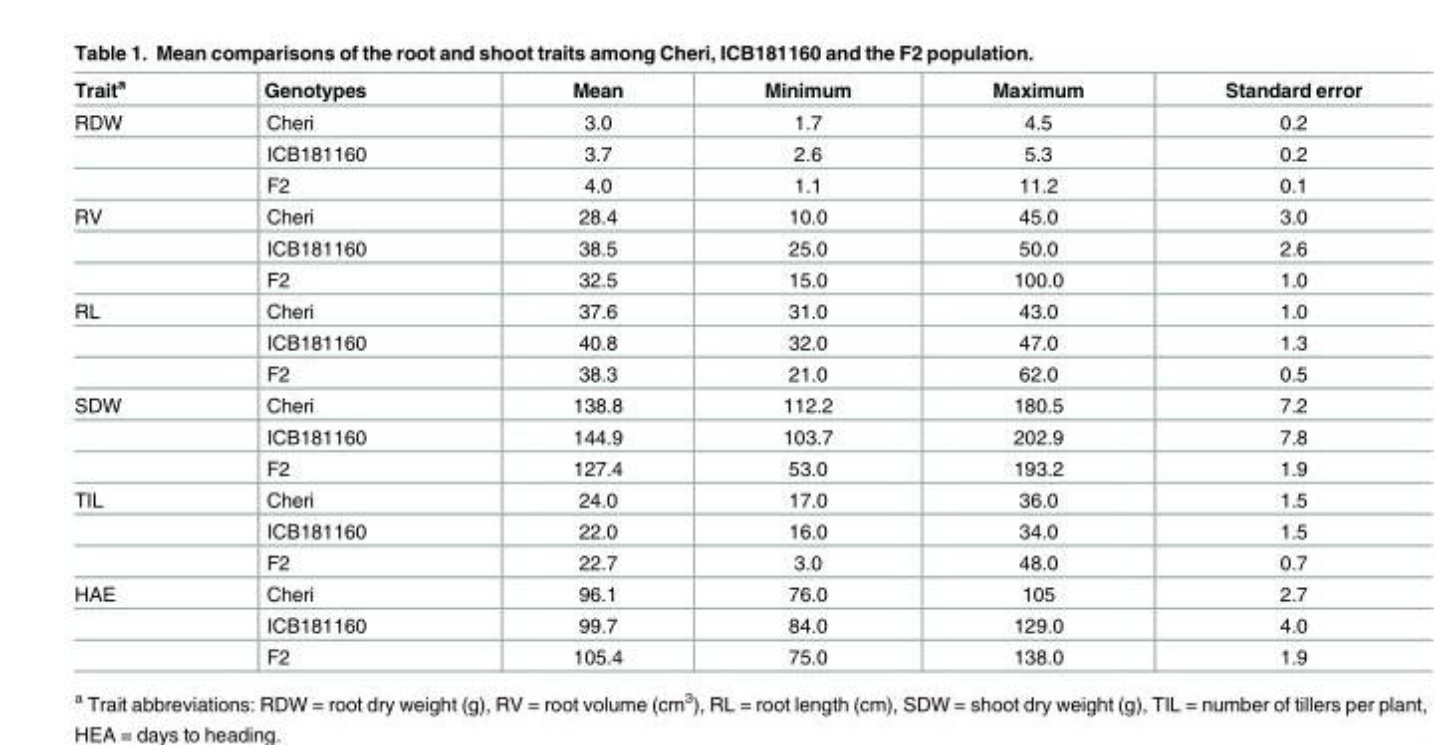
<table><thead><tr><td>Trait<sup>a</sup></td><td>Genotypes</td><td>Mean</td><td>Minimum</td><td>Maximum</td><td>Standard error</td></tr></thead><tbody><tr><td rowspan="3">RDW</td><td>Cheri</td><td>3.0</td><td>1.7</td><td>4.5</td><td>0.2</td></tr><tr><td>ICB181160</td><td>3.7</td><td>2.6</td><td>5.3</td><td>0.2</td></tr><tr><td>F2</td><td>4.0</td><td>1.1</td><td>11.2</td><td>0.1</td></tr><tr><td rowspan="3">RV</td><td>Cheri</td><td>28.4</td><td>10.0</td><td>45.0</td><td>3.0</td></tr><tr><td>ICB181160</td><td>38.5</td><td>25.0</td><td>50.0</td><td>2.6</td></tr><tr><td>F2</td><td>32.5</td><td>15.0</td><td>100.0</td><td>1.0</td></tr><tr><td rowspan="3">RL</td><td>Cheri</td><td>37.6</td><td>31.0</td><td>43.0</td><td>1.0</td></tr><tr><td>ICB181160</td><td>40.8</td><td>32.0</td><td>47.0</td><td>1.3</td></tr><tr><td>F2</td><td>38.3</td><td>21.0</td><td>62.0</td><td>0.5</td></tr><tr><td rowspan="3">SDW</td><td>Cheri</td><td>138.8</td><td>112.2</td><td>180.5</td><td>7.2</td></tr><tr><td>ICB181160</td><td>144.9</td><td>103.7</td><td>202.9</td><td>7.8</td></tr><tr><td>F2</td><td>127.4</td><td>53.0</td><td>193.2</td><td>1.9</td></tr><tr><td rowspan="3">TIL</td><td>Cheri</td><td>24.0</td><td>17.0</td><td>36.0</td><td>1.5</td></tr><tr><td>ICB181160</td><td>22.0</td><td>16.0</td><td>34.0</td><td>1.5</td></tr><tr><td>F2</td><td>22.7</td><td>3.0</td><td>48.0</td><td>0.7</td></tr><tr><td rowspan="3">HAE</td><td>Cheri</td><td>96.1</td><td>76.0</td><td>105</td><td>2.7</td></tr><tr><td>ICB181160</td><td>99.7</td><td>84.0</td><td>129.0</td><td>4.0</td></tr><tr><td>F2</td><td>105.4</td><td>75.0</td><td>138.0</td><td>1.9</td></tr></tbody></table>